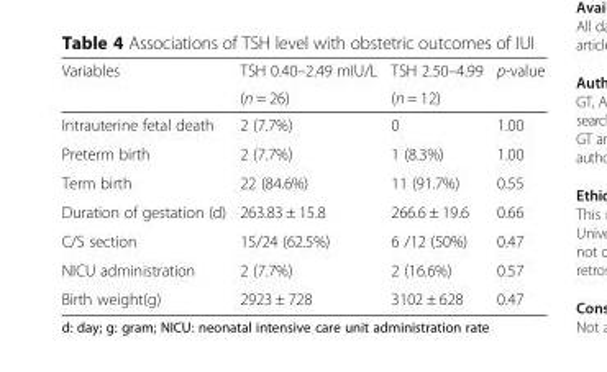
<table><thead><tr><td rowspan="2">Variables</td><td rowspan="2">TSH 0.40–2.49 mIU/L (n = 26)</td><td rowspan="2">TSH 2.50–4.99 (n = 12)</td><td rowspan="2">p-value</td></tr><tr></tr></thead><tbody><tr><td>Intrauterine fetal death</td><td>2 (7.7%)</td><td>0</td><td>1.00</td></tr><tr><td>Preterm birth</td><td>2 (7.7%)</td><td>1 (8.3%)</td><td>1.00</td></tr><tr><td>Term birth</td><td>22 (84.6%)</td><td>11 (91.7%)</td><td>0.55</td></tr><tr><td>Duration of gestation (d)</td><td>263.83 ± 15.8</td><td>266.6 ± 19.6</td><td>0.66</td></tr><tr><td>C/S section</td><td>15/24 (62.5%)</td><td>6 /12 (50%)</td><td>0.47</td></tr><tr><td>NICU administration</td><td>2 (7.7%)</td><td>2 (16.6%)</td><td>0.57</td></tr><tr><td>Birth weight(g)</td><td>2923 ± 728</td><td>3102 ± 628</td><td>0.47</td></tr></tbody></table>